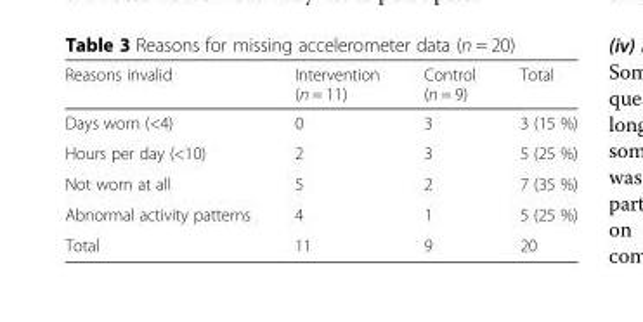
<table><thead><tr><td>Reasons invalid</td><td>Intervention (n = 11)</td><td>Control (n = 9)</td><td>Total</td></tr></thead><tbody><tr><td>Days worn (&lt;4)</td><td>0</td><td>3</td><td>3 (15 %)</td></tr><tr><td>Hours per day (&lt;10)</td><td>2</td><td>3</td><td>5 (25 %)</td></tr><tr><td>Not worn at all</td><td>5</td><td>2</td><td>7 (35 %)</td></tr><tr><td>Abnormal activity patterns</td><td>4</td><td>1</td><td>5 (25 %)</td></tr><tr><td>Total</td><td>11</td><td>9</td><td>20</td></tr></tbody></table>